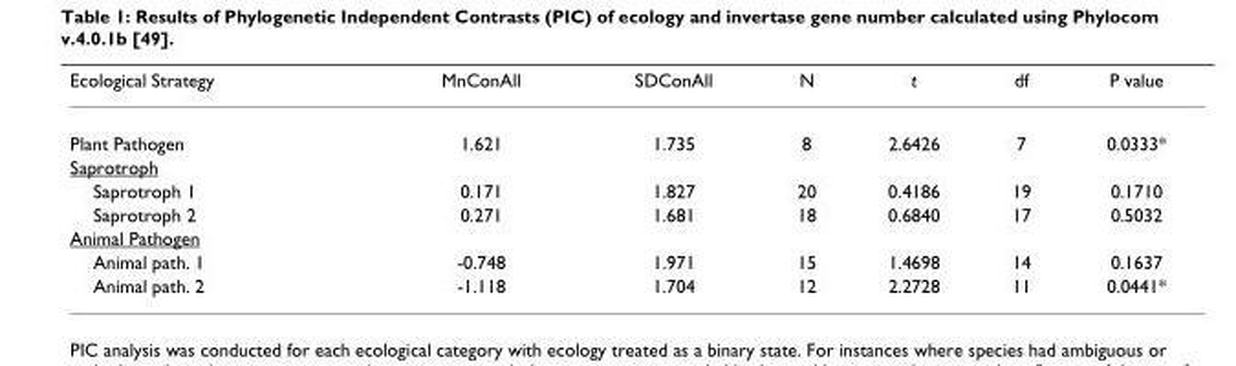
<table><thead><tr><td>Ecological Strategy</td><td>MnConAll</td><td>SDConAll</td><td>N</td><td>t</td><td>df</td><td>P value</td></tr></thead><tbody><tr><td>Plant Pathogen</td><td>1.621</td><td>1.735</td><td>8</td><td>2.6426</td><td>7</td><td>0.0333*</td></tr><tr><td colspan="7">Saprotroph</td></tr><tr><td>Saprotroph 1</td><td>0.171</td><td>1.827</td><td>20</td><td>0.4186</td><td>19</td><td>0.1710</td></tr><tr><td>Saprotroph 2</td><td>0.271</td><td>1.681</td><td>18</td><td>0.6840</td><td>17</td><td>0.5032</td></tr><tr><td colspan="7">Animal Pathogen</td></tr><tr><td>Animal path. 1</td><td>-0.748</td><td>1.971</td><td>15</td><td>1.4698</td><td>14</td><td>0.1637</td></tr><tr><td>Animal path. 2</td><td>-1.118</td><td>1.704</td><td>12</td><td>2.2728</td><td>11</td><td>0.0441*</td></tr></tbody></table>